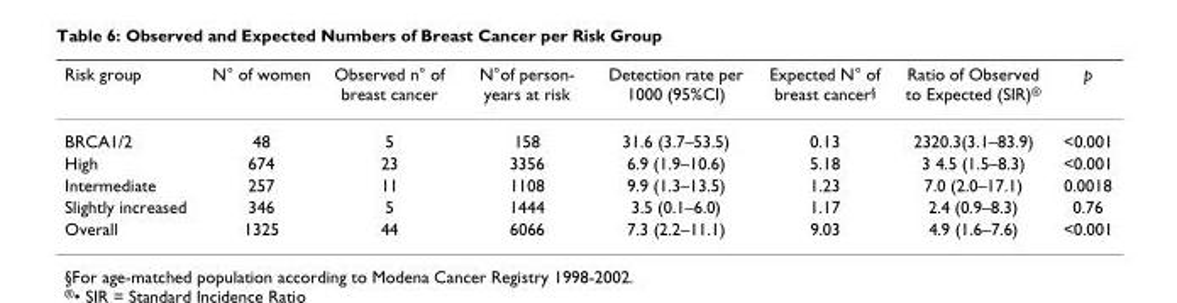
<table><thead><tr><td>Risk group</td><td>N° of women</td><td>Observed n° of breast cancer</td><td>N°of person- years at risk</td><td>Detection rate per 1000 (95%CI)</td><td>Expected N° of breast cancer§</td><td>Ratio of Observed to Expected (SIR)®</td><td>p</td></tr></thead><tbody><tr><td>BRCA1/2</td><td>48</td><td>5</td><td>158</td><td>31.6 (3.7–53.5)</td><td>0.13</td><td>2320.3(3.1–83.9)</td><td>&lt;0.001</td></tr><tr><td>High</td><td>674</td><td>23</td><td>3356</td><td>6.9 (1.9–10.6)</td><td>5.18</td><td>3 4.5 (1.5–8.3)</td><td>&lt;0.001</td></tr><tr><td>Intermediate</td><td>257</td><td>11</td><td>1108</td><td>9.9 (1.3–13.5)</td><td>1.23</td><td>7.0 (2.0–17.1)</td><td>0.0018</td></tr><tr><td>Slightly increased</td><td>346</td><td>5</td><td>1444</td><td>3.5 (0.1–6.0)</td><td>1.17</td><td>2.4 (0.9–8.3)</td><td>0.76</td></tr><tr><td>Overall</td><td>1325</td><td>44</td><td>6066</td><td>7.3 (2.2–11.1)</td><td>9.03</td><td>4.9 (1.6–7.6)</td><td>&lt;0.001</td></tr></tbody></table>